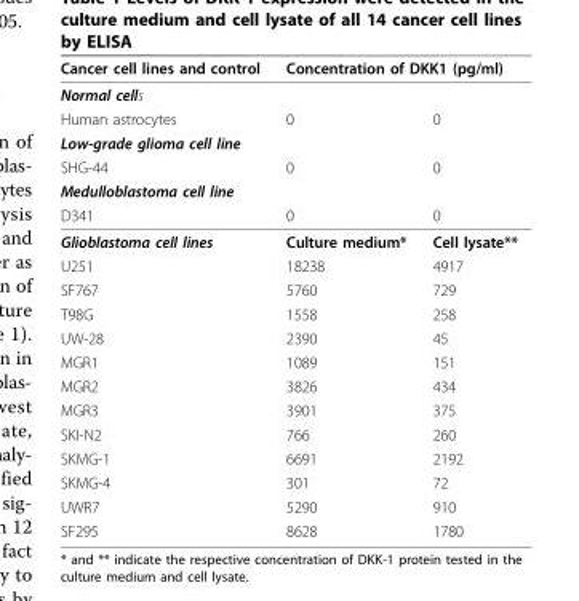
<table><thead><tr><td rowspan="2">Cancer cell lines and control Normal cells</td><td colspan="2">Concentration of DKK1 (pg/ml)</td></tr><tr><td></td><td></td></tr></thead><tbody><tr><td>Human astrocytes</td><td>0</td><td>0</td></tr><tr><td colspan="3">Low-grade glioma cell line</td></tr><tr><td>SHG-44</td><td>0</td><td>0</td></tr><tr><td colspan="3">Medulloblastoma cell line</td></tr><tr><td>D341</td><td>0</td><td>0</td></tr><tr><td>Glioblastoma cell lines</td><td>Culture medium*</td><td>Cell lysate**</td></tr><tr><td>U251</td><td>18238</td><td>4917</td></tr><tr><td>SF767</td><td>5760</td><td>729</td></tr><tr><td>T98G</td><td>1558</td><td>258</td></tr><tr><td>UW-28</td><td>2390</td><td>45</td></tr><tr><td>MGR1</td><td>1089</td><td>151</td></tr><tr><td>MGR2</td><td>3826</td><td>434</td></tr><tr><td>MGR3</td><td>3901</td><td>375</td></tr><tr><td>SKI-N2</td><td>766</td><td>260</td></tr><tr><td>SKMG-1</td><td>6691</td><td>2192</td></tr><tr><td>SKMG-4</td><td>301</td><td>72</td></tr><tr><td>UWR7</td><td>5290</td><td>910</td></tr><tr><td>SF295</td><td>8628</td><td>1780</td></tr></tbody></table>